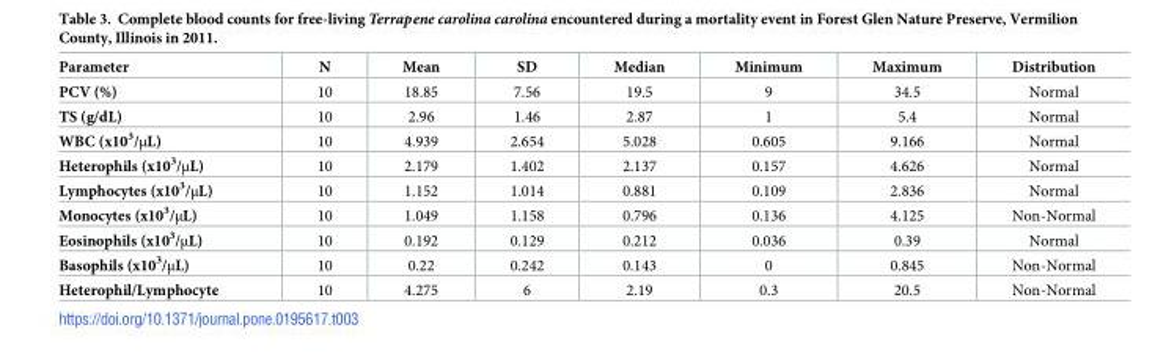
<table><thead><tr><td>Parameter</td><td>N</td><td>Mean</td><td>SD</td><td>Median</td><td>Minimum</td><td>Maximum</td><td>Distribution</td></tr></thead><tbody><tr><td>PCV (%)</td><td>10</td><td>18.85</td><td>7.56</td><td>19.5</td><td>9</td><td>34.5</td><td>Normal</td></tr><tr><td>TS (g/dL)</td><td>10</td><td>2.96</td><td>1.46</td><td>2.87</td><td>1</td><td>5.4</td><td>Normal</td></tr><tr><td>WBC (x10<sup>3</sup>/μL)</td><td>10</td><td>4.939</td><td>2.654</td><td>5.028</td><td>0.605</td><td>9.166</td><td>Normal</td></tr><tr><td>Heterophils (x10<sup>3</sup>/μL)</td><td>10</td><td>2.179</td><td>1.402</td><td>2.137</td><td>0.157</td><td>4.626</td><td>Normal</td></tr><tr><td>Lymphocytes (x10<sup>3</sup>/μL)</td><td>10</td><td>1.152</td><td>1.014</td><td>0.881</td><td>0.109</td><td>2.836</td><td>Normal</td></tr><tr><td>Monocytes (x10<sup>3</sup>/μL)</td><td>10</td><td>1.049</td><td>1.158</td><td>0.796</td><td>0.136</td><td>4.125</td><td>Non-Normal</td></tr><tr><td>Eosinophils (x10<sup>3</sup>/μL)</td><td>10</td><td>0.192</td><td>0.129</td><td>0.212</td><td>0.036</td><td>0.39</td><td>Normal</td></tr><tr><td>Basophils (x10<sup>3</sup>/μL)</td><td>10</td><td>0.22</td><td>0.242</td><td>0.143</td><td>0</td><td>0.845</td><td>Non-Normal</td></tr><tr><td>Heterophil/Lymphocyte</td><td>10</td><td>4.275</td><td>6</td><td>2.19</td><td>0.3</td><td>20.5</td><td>Non-Normal</td></tr></tbody></table>